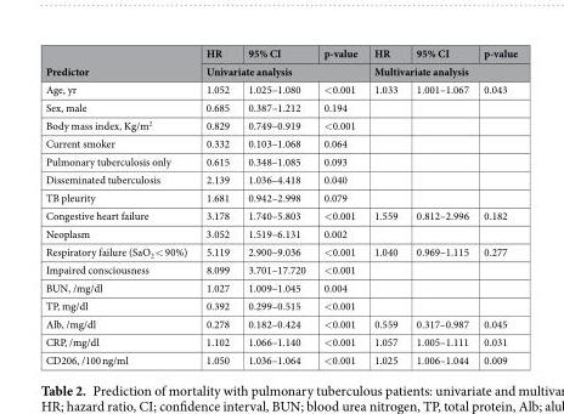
<table><thead><tr><td rowspan="2">Predictor</td><td>HR</td><td>95% CI</td><td>p-value</td><td>HR</td><td>95% CI</td><td>p-value</td></tr><tr><td colspan="3">Univariate analysis</td><td colspan="3">Multivariate analysis</td></tr></thead><tbody><tr><td>Age, yr</td><td>1.052</td><td>1.025–1.080</td><td>&lt;0.001</td><td>1.033</td><td>1.001–1.067</td><td>0.043</td></tr><tr><td>Sex, male</td><td>0.685</td><td>0.387–1.212</td><td>0.194</td><td></td><td></td><td></td></tr><tr><td>Body mass index, Kg/m<sup>2</sup></td><td>0.829</td><td>0.749–0.919</td><td>&lt;0.001</td><td></td><td></td><td></td></tr><tr><td>Current smoker</td><td>0.332</td><td>0.103–1.068</td><td>0.064</td><td></td><td></td><td></td></tr><tr><td>Pulmonary tuberculosis only</td><td>0.615</td><td>0.348–1.085</td><td>0.093</td><td></td><td></td><td></td></tr><tr><td>Disseminated tuberculosis</td><td>2.139</td><td>1.036–4.418</td><td>0.040</td><td></td><td></td><td></td></tr><tr><td>TB pleurity</td><td>1.681</td><td>0.942–2.998</td><td>0.079</td><td></td><td></td><td></td></tr><tr><td>Congestive heart failure</td><td>3.178</td><td>1.740–5.803</td><td>&lt;0.001</td><td>1.559</td><td>0.812–2.996</td><td>0.182</td></tr><tr><td>Neoplasm</td><td>3.052</td><td>1.519–6.131</td><td>0.002</td><td></td><td></td><td></td></tr><tr><td>Respiratory failure (SaO<sub>2</sub> &lt; 90%)</td><td>5.119</td><td>2.900–9.036</td><td>&lt;0.001</td><td>1.040</td><td>0.969–1.115</td><td>0.277</td></tr><tr><td>Impaired consciousness</td><td>8.099</td><td>3.701–17.720</td><td>&lt;0.001</td><td></td><td></td><td></td></tr><tr><td>BUN, /mg/dl</td><td>1.027</td><td>1.009–1.045</td><td>0.004</td><td></td><td></td><td></td></tr><tr><td>TP, mg/dl</td><td>0.392</td><td>0.299–0.515</td><td>&lt;0.001</td><td></td><td></td><td></td></tr><tr><td>Alb, /mg/dl</td><td>0.278</td><td>0.182–0.424</td><td>&lt;0.001</td><td>0.559</td><td>0.317–0.987</td><td>0.045</td></tr><tr><td>CRP, /mg/dl</td><td>1.102</td><td>1.066–1.140</td><td>&lt;0.001</td><td>1.057</td><td>1.005–1.111</td><td>0.031</td></tr><tr><td>CD206, /100 ng/ml</td><td>1.050</td><td>1.036–1.064</td><td>&lt;0.001</td><td>1.025</td><td>1.006–1.044</td><td>0.009</td></tr></tbody></table>